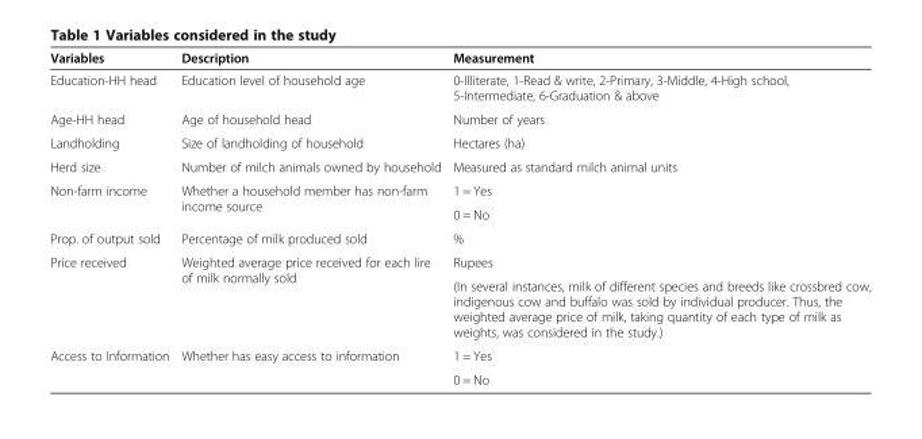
<table><thead><tr><td>Variables</td><td>Description</td><td>Measurement</td></tr></thead><tbody><tr><td>Education-HH head</td><td>Education level of household age</td><td>0-Illiterate, 1-Read &amp; write, 2-Primary, 3-Middle, 4-High school, 5-Intermediate, 6-Graduation &amp; above</td></tr><tr><td>Age-HH head</td><td>Age of household head</td><td>Number of years</td></tr><tr><td>Landholding</td><td>Size of landholding of household</td><td>Hectares (ha)</td></tr><tr><td>Herd size</td><td>Number of milch animals owned by household</td><td>Measured as standard milch animal units</td></tr><tr><td rowspan="2">Non-farm income</td><td rowspan="2">Whether a household member has non-farm income source</td><td>1 = Yes</td></tr><tr><td>0 = No</td></tr><tr><td>Prop. of output sold</td><td>Percentage of milk produced sold</td><td>%</td></tr><tr><td rowspan="2">Price received</td><td rowspan="2">Weighted average price received for each lire of milk normally sold</td><td>Rupees</td></tr><tr><td>(In several instances, milk of different species and breeds like crossbred cow, indigenous cow and buffalo was sold by individual producer. Thus, the weighted average price of milk, taking quantity of each type of milk as weights, was considered in the study.)</td></tr><tr><td rowspan="2">Access to Information</td><td>Whether has easy access to information</td><td>1 = Yes</td></tr><tr><td></td><td>0 = No</td></tr></tbody></table>